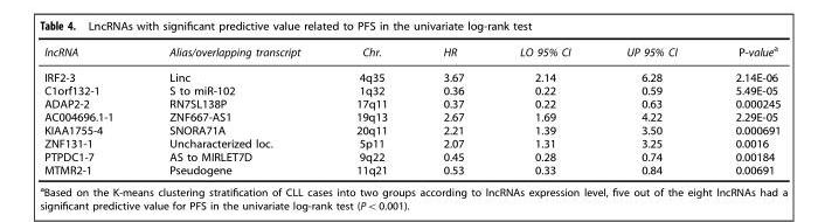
<table><thead><tr><td>lncRNA</td><td>Alias/overlapping transcript</td><td>Chr.</td><td>HR</td><td>LO 95% CI</td><td>UP 95% CI</td><td>P-value<sup>a</sup></td></tr></thead><tbody><tr><td>IRF2-3</td><td>Linc</td><td>4q35</td><td>3.67</td><td>2.14</td><td>6.28</td><td>2.14E-06</td></tr><tr><td>C1orf132-1</td><td>S to miR-102</td><td>1q32</td><td>0.36</td><td>0.22</td><td>0.59</td><td>5.49E-05</td></tr><tr><td>ADAP2-2</td><td>RN7SL138P</td><td>17q11</td><td>0.37</td><td>0.22</td><td>0.63</td><td>0.000245</td></tr><tr><td>AC004696.1-1</td><td>ZNF667-AS1</td><td>19q13</td><td>2.67</td><td>1.69</td><td>4.22</td><td>2.29E-05</td></tr><tr><td>KIAA1755-4</td><td>SNORA71A</td><td>20q11</td><td>2.21</td><td>1.39</td><td>3.50</td><td>0.000691</td></tr><tr><td>ZNF131-1</td><td>Uncharacterized loc.</td><td>5p11</td><td>2.07</td><td>1.31</td><td>3.25</td><td>0.0016</td></tr><tr><td>PTPDC1-7</td><td>AS to MIRLET7D</td><td>9q22</td><td>0.45</td><td>0.28</td><td>0.74</td><td>0.00184</td></tr><tr><td>MTMR2-1</td><td>Pseudogene</td><td>11q21</td><td>0.53</td><td>0.33</td><td>0.84</td><td>0.00691</td></tr></tbody></table>